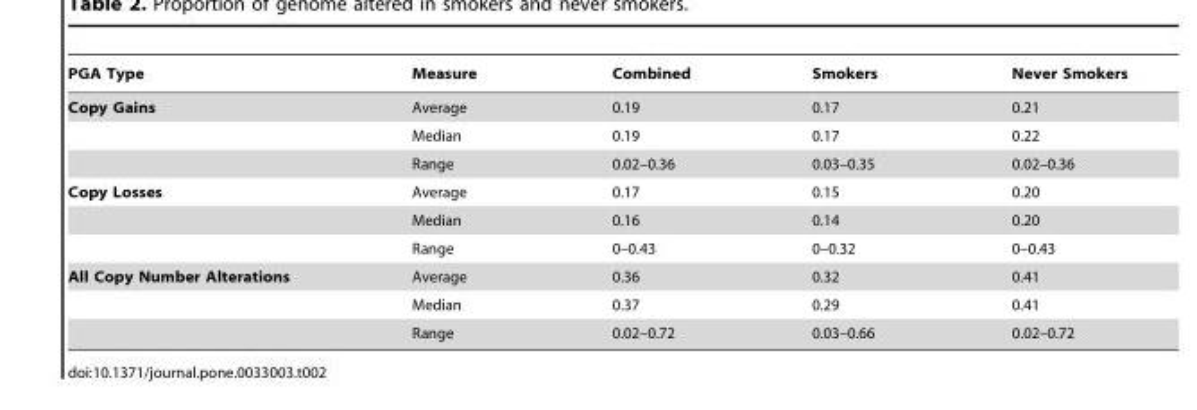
<table><thead><tr><td>PGA Type</td><td>Measure</td><td>Combined</td><td>Smokers</td><td>Never Smokers</td></tr></thead><tbody><tr><td rowspan="3">Copy Gains</td><td>Average</td><td>0.19</td><td>0.17</td><td>0.21</td></tr><tr><td>Median</td><td>0.19</td><td>0.17</td><td>0.22</td></tr><tr><td>Range</td><td>0.02–0.36</td><td>0.03–0.35</td><td>0.02–0.36</td></tr><tr><td rowspan="3">Copy Losses</td><td>Average</td><td>0.17</td><td>0.15</td><td>0.20</td></tr><tr><td>Median</td><td>0.16</td><td>0.14</td><td>0.20</td></tr><tr><td>Range</td><td>0–0.43</td><td>0–0.32</td><td>0–0.43</td></tr><tr><td rowspan="3">All Copy Number Alterations</td><td>Average</td><td>0.36</td><td>0.32</td><td>0.41</td></tr><tr><td>Median</td><td>0.37</td><td>0.29</td><td>0.41</td></tr><tr><td>Range</td><td>0.02–0.72</td><td>0.03–0.66</td><td>0.02–0.72</td></tr></tbody></table>